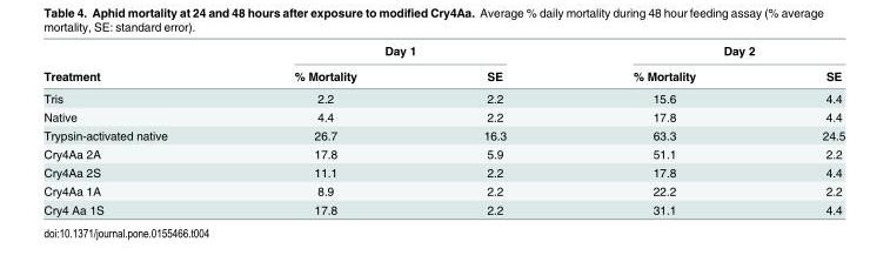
<table><thead><tr><td rowspan="2">Treatment</td><td colspan="2">Day 1</td><td colspan="2">Day 2</td></tr><tr><td>% Mortality</td><td>SE</td><td>% Mortality</td><td>SE</td></tr></thead><tbody><tr><td>Tris</td><td>2.2</td><td>2.2</td><td>15.6</td><td>4.4</td></tr><tr><td>Native</td><td>4.4</td><td>2.2</td><td>17.8</td><td>4.4</td></tr><tr><td>Trypsin-activated native</td><td>26.7</td><td>16.3</td><td>63.3</td><td>24.5</td></tr><tr><td>Cry4Aa 2A</td><td>17.8</td><td>5.9</td><td>51.1</td><td>2.2</td></tr><tr><td>Cry4Aa 2S</td><td>11.1</td><td>2.2</td><td>17.8</td><td>4.4</td></tr><tr><td>Cry4Aa 1A</td><td>8.9</td><td>2.2</td><td>22.2</td><td>2.2</td></tr><tr><td>Cry4 Aa 1S</td><td>17.8</td><td>2.2</td><td>31.1</td><td>4.4</td></tr></tbody></table>